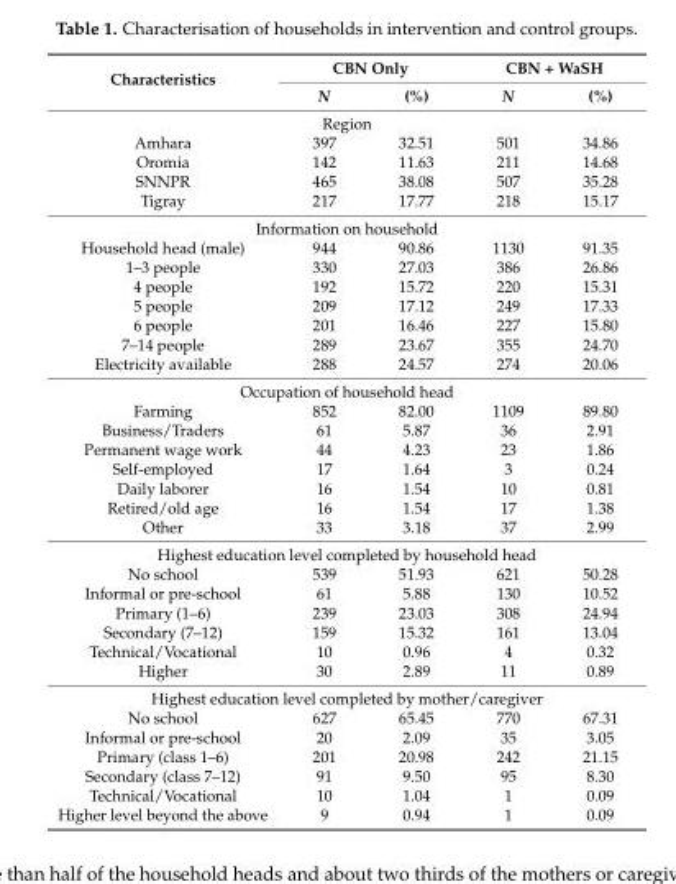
<table><thead><tr><td rowspan="2">Characteristics</td><td colspan="2">CBN Only</td><td colspan="2">CBN + WaSH</td></tr><tr><td>N</td><td>(%)</td><td>N</td><td>(%)</td></tr></thead><tbody><tr><td colspan="5">Region</td></tr><tr><td>Amhara</td><td>397</td><td>32.51</td><td>501</td><td>34.86</td></tr><tr><td>Oromia</td><td>142</td><td>11.63</td><td>211</td><td>14.68</td></tr><tr><td>SNNPR</td><td>465</td><td>38.08</td><td>507</td><td>35.28</td></tr><tr><td>Tigray</td><td>217</td><td>17.77</td><td>218</td><td>15.17</td></tr><tr><td colspan="5">Information on household</td></tr><tr><td>Household head (male)</td><td>944</td><td>90.86</td><td>1130</td><td>91.35</td></tr><tr><td>1–3 people</td><td>330</td><td>27.03</td><td>386</td><td>26.86</td></tr><tr><td>4 people</td><td>192</td><td>15.72</td><td>220</td><td>15.31</td></tr><tr><td>5 people</td><td>209</td><td>17.12</td><td>249</td><td>17.33</td></tr><tr><td>6 people</td><td>201</td><td>16.46</td><td>227</td><td>15.80</td></tr><tr><td>7–14 people</td><td>289</td><td>23.67</td><td>355</td><td>24.70</td></tr><tr><td>Electricity available</td><td>288</td><td>24.57</td><td>274</td><td>20.06</td></tr><tr><td colspan="5">Occupation of household head</td></tr><tr><td>Farming</td><td>852</td><td>82.00</td><td>1109</td><td>89.80</td></tr><tr><td>Business/Traders</td><td>61</td><td>5.87</td><td>36</td><td>2.91</td></tr><tr><td>Permanent wage work</td><td>44</td><td>4.23</td><td>23</td><td>1.86</td></tr><tr><td>Self-employed</td><td>17</td><td>1.64</td><td>3</td><td>0.24</td></tr><tr><td>Daily laborer</td><td>16</td><td>1.54</td><td>10</td><td>0.81</td></tr><tr><td>Retired/old age</td><td>16</td><td>1.54</td><td>17</td><td>1.38</td></tr><tr><td>Other</td><td>33</td><td>3.18</td><td>37</td><td>2.99</td></tr><tr><td colspan="5">Highest education level completed by household head</td></tr><tr><td>No school</td><td>539</td><td>51.93</td><td>621</td><td>50.28</td></tr><tr><td>Informal or pre-school</td><td>61</td><td>5.88</td><td>130</td><td>10.52</td></tr><tr><td>Primary (1–6)</td><td>239</td><td>23.03</td><td>308</td><td>24.94</td></tr><tr><td>Secondary (7–12)</td><td>159</td><td>15.32</td><td>161</td><td>13.04</td></tr><tr><td>Technical/Vocational</td><td>10</td><td>0.96</td><td>4</td><td>0.32</td></tr><tr><td>Higher</td><td>30</td><td>2.89</td><td>11</td><td>0.89</td></tr><tr><td colspan="5">Highest education level completed by mother/caregiver</td></tr><tr><td>No school</td><td>627</td><td>65.45</td><td>770</td><td>67.31</td></tr><tr><td>Informal or pre-school</td><td>20</td><td>2.09</td><td>35</td><td>3.05</td></tr><tr><td>Primary (class 1–6)</td><td>201</td><td>20.98</td><td>242</td><td>21.15</td></tr><tr><td>Secondary (class 7–12)</td><td>91</td><td>9.50</td><td>95</td><td>8.30</td></tr><tr><td>Technical/Vocational</td><td>10</td><td>1.04</td><td>1</td><td>0.09</td></tr><tr><td>Higher level beyond the above</td><td>9</td><td>0.94</td><td>1</td><td>0.09</td></tr></tbody></table>